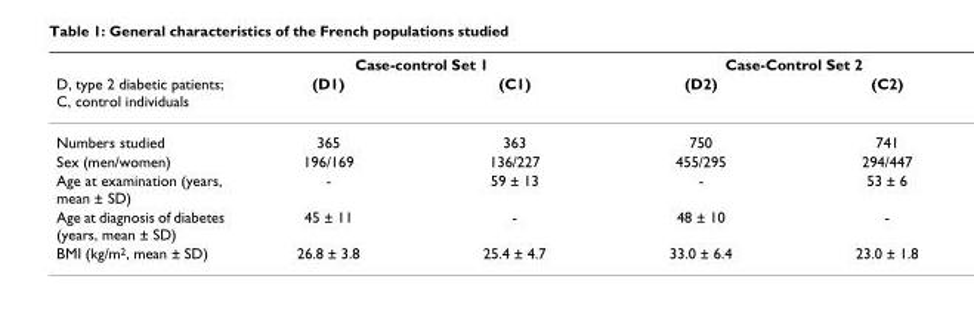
<table><thead><tr><td rowspan="2">D, type 2 diabetic patients; C, control individuals</td><td colspan="2">Case-control Set 1</td><td colspan="2">Case-Control Set 2</td></tr><tr><td>(D1)</td><td>(C1)</td><td>(D2)</td><td>(C2)</td></tr></thead><tbody><tr><td>Numbers studied</td><td>365</td><td>363</td><td>750</td><td>741</td></tr><tr><td>Sex (men/women)</td><td>196/169</td><td>136/227</td><td>455/295</td><td>294/447</td></tr><tr><td>Age at examination (years, mean ± SD)</td><td>-</td><td>59 ± 13</td><td>-</td><td>53 ± 6</td></tr><tr><td>Age at diagnosis of diabetes (years, mean ± SD)</td><td>45 ± 11</td><td>-</td><td>48 ± 10</td><td>-</td></tr><tr><td>BMI (kg/m<sup>2</sup>, mean ± SD)</td><td>26.8 ± 3.8</td><td>25.4 ± 4.7</td><td>33.0 ± 6.4</td><td>23.0 ± 1.8</td></tr></tbody></table>